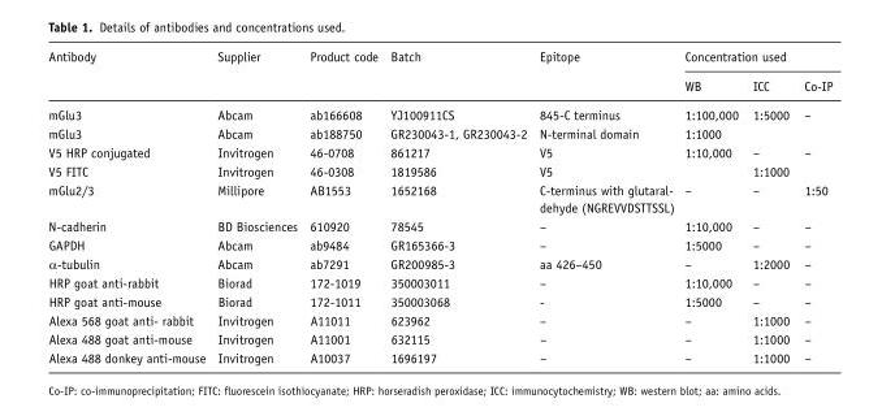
<table><thead><tr><td rowspan="2">Antibody</td><td rowspan="2">Supplier</td><td rowspan="2">Product code</td><td rowspan="2">Batch</td><td rowspan="2">Epitope</td><td colspan="3">Concentration used</td></tr><tr><td>WB</td><td>ICC</td><td>Co-IP</td></tr></thead><tbody><tr><td>mGlu3</td><td>Abcam</td><td>ab166608</td><td>YJ100911CS</td><td>845-C terminus</td><td>1:100,000</td><td>1:5000</td><td>–</td></tr><tr><td>mGlu3</td><td>Abcam</td><td>ab188750</td><td>GR230043-1, GR230043-2</td><td>N-terminal domain</td><td>1:1000</td><td></td><td></td></tr><tr><td>V5 HRP conjugated</td><td>Invitrogen</td><td>46-0708</td><td>861217</td><td>V5</td><td>1:10,000</td><td>–</td><td>–</td></tr><tr><td>V5 FITC</td><td>Invitrogen</td><td>46-0308</td><td>1819586</td><td>V5</td><td></td><td>1:1000</td><td></td></tr><tr><td>mGlu2/3</td><td>Millipore</td><td>AB1553</td><td>1652168</td><td>C-terminus with glutaral- dehyde (NGREVVDSTTSSL)</td><td>–</td><td>–</td><td>1:50</td></tr><tr><td>N-cadherin</td><td>BD Biosciences</td><td>610920</td><td>78545</td><td>–</td><td>1:10,000</td><td>–</td><td>–</td></tr><tr><td>GAPDH</td><td>Abcam</td><td>ab9484</td><td>GR165366-3</td><td>–</td><td>1:5000</td><td>–</td><td>–</td></tr><tr><td>α-tubulin</td><td>Abcam</td><td>ab7291</td><td>GR200985-3</td><td>aa 426–450</td><td>–</td><td>1:2000</td><td>–</td></tr><tr><td>HRP goat anti-rabbit</td><td>Biorad</td><td>172-1019</td><td>350003011</td><td>–</td><td>1:10,000</td><td>–</td><td>–</td></tr><tr><td>HRP goat anti-mouse</td><td>Biorad</td><td>172-1011</td><td>350003068</td><td>-</td><td>1:5000</td><td>–</td><td>–</td></tr><tr><td>Alexa 568 goat anti- rabbit</td><td>Invitrogen</td><td>A11011</td><td>623962</td><td>–</td><td>–</td><td>1:1000</td><td>–</td></tr><tr><td>Alexa 488 goat anti-mouse</td><td>Invitrogen</td><td>A11001</td><td>632115</td><td>–</td><td>–</td><td>1:1000</td><td>–</td></tr><tr><td>Alexa 488 donkey anti-mouse</td><td>Invitrogen</td><td>A10037</td><td>1696197</td><td>–</td><td>–</td><td>1:1000</td><td>–</td></tr></tbody></table>